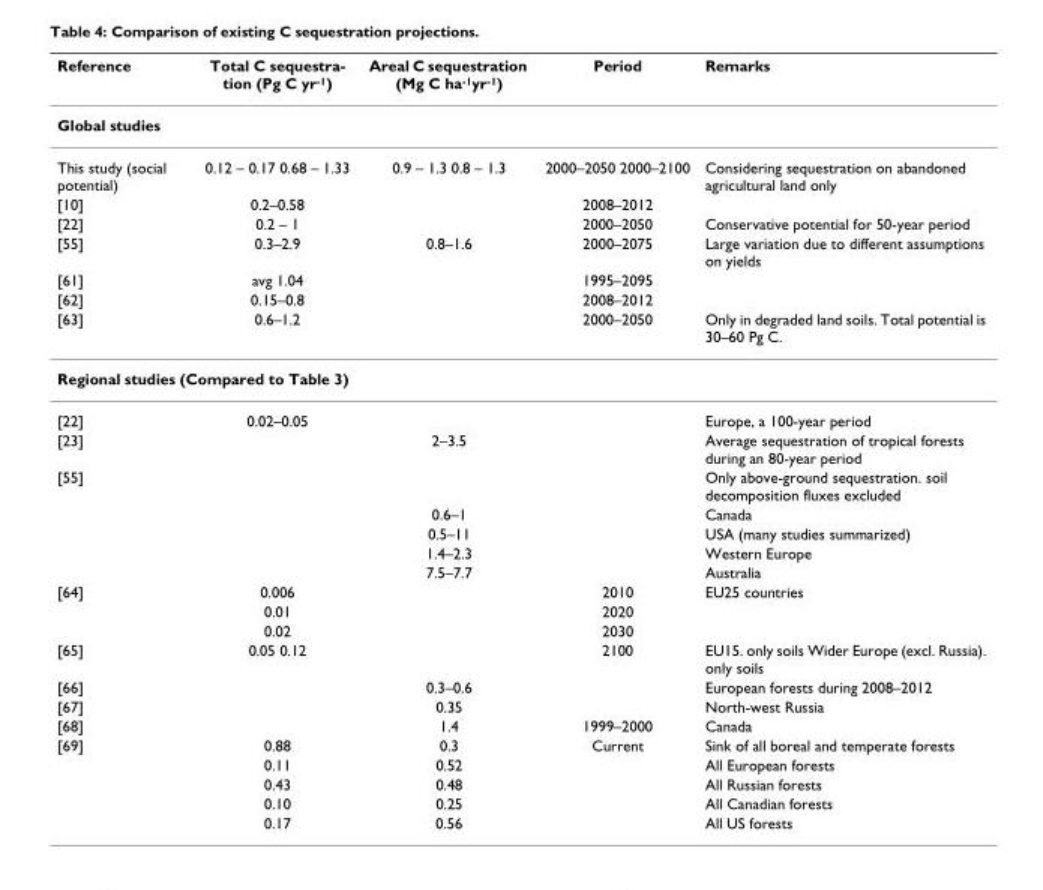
<table><thead><tr><td>Reference</td><td>Total C sequestra- tion (Pg C yr-1)</td><td>Areal C sequestration (Mg C ha<sup>-1</sup>yr<sup>-1</sup>)</td><td>Period</td><td>Remarks</td></tr></thead><tbody><tr><td colspan="5">Global studies</td></tr><tr><td>This study (social potential)</td><td>0.12 – 0.17 0.68 – 1.33</td><td>0.9 – 1.3 0.8 – 1.3</td><td>2000–2050 2000–2100</td><td>Considering sequestration on abandoned agricultural land only</td></tr><tr><td>[10]</td><td>0.2–0.58</td><td></td><td>2008–2012</td><td></td></tr><tr><td>[22]</td><td>0.2 – 1</td><td></td><td>2000–2050</td><td>Conservative potential for 50-year period</td></tr><tr><td>[55]</td><td>0.3–2.9</td><td>0.8–1.6</td><td>2000–2075</td><td>Large variation due to different assumptions on yields</td></tr><tr><td>[61]</td><td>avg 1.04</td><td></td><td>1995–2095</td><td></td></tr><tr><td>[62]</td><td>0.15–0.8</td><td></td><td>2008–2012</td><td></td></tr><tr><td>[63]</td><td>0.6–1.2</td><td></td><td>2000–2050</td><td>Only in degraded land soils. Total potential is 30–60 Pg C.</td></tr><tr><td colspan="5">Regional studies (Compared to Table 3)</td></tr><tr><td>[22]</td><td>0.02–0.05</td><td></td><td></td><td>Europe, a 100-year period</td></tr><tr><td>[23]</td><td></td><td>2–3.5</td><td></td><td>Average sequestration of tropical forests during an 80-year period</td></tr><tr><td rowspan="5">[55]</td><td></td><td></td><td></td><td>Only above-ground sequestration. soil decomposition fluxes excluded</td></tr><tr><td></td><td>0.6–1</td><td></td><td>Canada</td></tr><tr><td></td><td>0.5–11</td><td></td><td>USA (many studies summarized)</td></tr><tr><td></td><td>1.4–2.3</td><td></td><td>Western Europe</td></tr><tr><td></td><td>7.5–7.7</td><td></td><td>Australia</td></tr><tr><td rowspan="3">[64]</td><td>0.006</td><td></td><td>2010</td><td>EU25 countries</td></tr><tr><td>0.01</td><td></td><td>2020</td><td></td></tr><tr><td>0.02</td><td></td><td>2030</td><td></td></tr><tr><td>[65]</td><td>0.05 0.12</td><td></td><td>2100</td><td>EU15. only soils Wider Europe (excl. Russia). only soils</td></tr><tr><td>[66]</td><td></td><td>0.3–0.6</td><td></td><td>European forests during 2008–2012</td></tr><tr><td>[67]</td><td></td><td>0.35</td><td></td><td>North-west Russia</td></tr><tr><td>[68]</td><td></td><td>1.4</td><td>1999–2000</td><td>Canada</td></tr><tr><td rowspan="5">[69]</td><td>0.88</td><td>0.3</td><td>Current</td><td>Sink of all boreal and temperate forests</td></tr><tr><td>0.11</td><td>0.52</td><td></td><td>All European forests</td></tr><tr><td>0.43</td><td>0.48</td><td></td><td>All Russian forests</td></tr><tr><td>0.10</td><td>0.25</td><td></td><td>All Canadian forests</td></tr><tr><td>0.17</td><td>0.56</td><td></td><td>All US forests</td></tr></tbody></table>